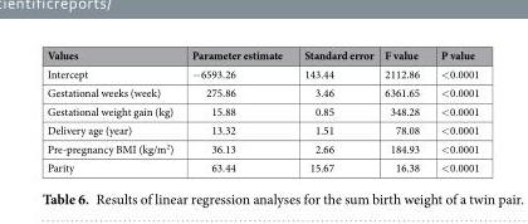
<table><thead><tr><td>Values</td><td>Parameter estimate</td><td>Standard error</td><td>F value</td><td>P value</td></tr></thead><tbody><tr><td>Intercept</td><td>−6593.26</td><td>143.44</td><td>2112.86</td><td>&lt;0.0001</td></tr><tr><td>Gestational weeks (week)</td><td>275.86</td><td>3.46</td><td>6361.65</td><td>&lt;0.0001</td></tr><tr><td>Gestational weight gain (kg)</td><td>15.88</td><td>0.85</td><td>348.28</td><td>&lt;0.0001</td></tr><tr><td>Delivery age (year)</td><td>13.32</td><td>1.51</td><td>78.08</td><td>&lt;0.0001</td></tr><tr><td>Pre-pregnancy BMI (kg/m<sup>2</sup>)</td><td>36.13</td><td>2.66</td><td>184.93</td><td>&lt;0.0001</td></tr><tr><td>Parity</td><td>63.44</td><td>15.67</td><td>16.38</td><td>&lt;0.0001</td></tr></tbody></table>